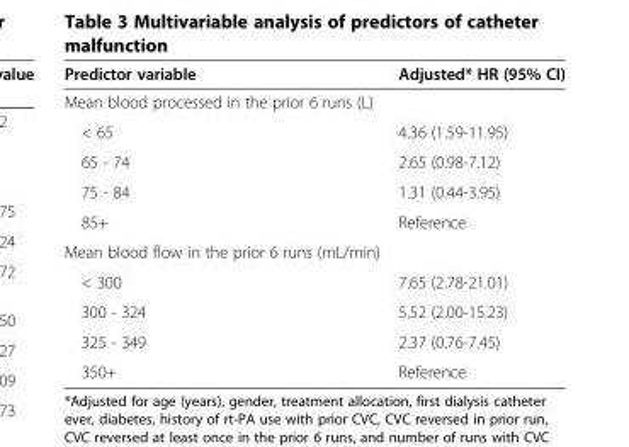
<table><thead><tr><td>Predictor variable</td><td>Adjusted* HR (95% CI)</td></tr></thead><tbody><tr><td colspan="2">Mean blood processed in the prior 6 runs (L)</td></tr><tr><td>&lt; 65</td><td>4.36 (1.59-11.95)</td></tr><tr><td>65 - 74</td><td>2.65 (0.98-7.12)</td></tr><tr><td>75 - 84</td><td>1.31 (0.44-3.95)</td></tr><tr><td>85+</td><td>Reference</td></tr><tr><td colspan="2">Mean blood flow in the prior 6 runs (mL/min)</td></tr><tr><td>&lt; 300</td><td>7.65 (2.78-21.01)</td></tr><tr><td>300 - 324</td><td>5.52 (2.00-15.23)</td></tr><tr><td>325 - 349</td><td>2.37 (0.76-7.45)</td></tr><tr><td>350+</td><td>Reference</td></tr></tbody></table>